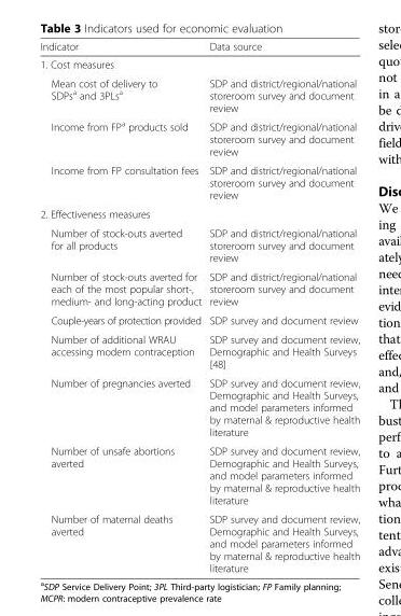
<table><thead><tr><td>Indicator</td><td>Data source</td></tr></thead><tbody><tr><td colspan="2">1. Cost measures</td></tr><tr><td>Mean cost of delivery to SDPs<sup>a</sup> and 3PLs<sup>a</sup></td><td>SDP and district/regional/national storeroom survey and document review</td></tr><tr><td>Income from FP<sup>a</sup> products sold</td><td>SDP and district/regional/national storeroom survey and document review</td></tr><tr><td>Income from FP consultation fees</td><td>SDP and district/regional/national storeroom survey and document review</td></tr><tr><td colspan="2">2. Effectiveness measures</td></tr><tr><td>Number of stock-outs averted for all products</td><td>SDP and district/regional/national storeroom survey and document review</td></tr><tr><td>Number of stock-outs averted for each of the most popular short-, medium- and long-acting product</td><td>SDP and district/regional/national storeroom survey and document review</td></tr><tr><td>Couple-years of protection provided</td><td>SDP survey and document review</td></tr><tr><td>Number of additional WRAU accessing modern contraception</td><td>SDP survey and document review, Demographic and Health Surveys [48]</td></tr><tr><td>Number of pregnancies averted</td><td>SDP survey and document review, Demographic and Health Surveys, and model parameters informed by maternal &amp; reproductive health literature</td></tr><tr><td>Number of unsafe abortions averted</td><td>SDP survey and document review, Demographic and Health Surveys, and model parameters informed by maternal &amp; reproductive health literature</td></tr><tr><td>Number of maternal deaths averted</td><td>SDP survey and document review, Demographic and Health Surveys, and model parameters informed by maternal &amp; reproductive health literature</td></tr></tbody></table>